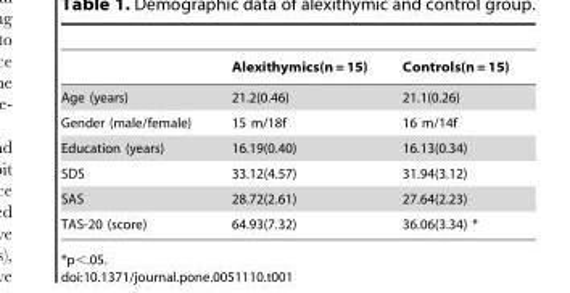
<table><thead><tr><td></td><td>Alexithymics(n = 15)</td><td>Controls(n = 15)</td></tr></thead><tbody><tr><td>Age (years)</td><td>21.2(0.46)</td><td>21.1(0.26)</td></tr><tr><td>Gender (male/female)</td><td>15 m/18f</td><td>16 m/14f</td></tr><tr><td>Education (years)</td><td>16.19(0.40)</td><td>16.13(0.34)</td></tr><tr><td>SDS</td><td>33.12(4.57)</td><td>31.94(3.12)</td></tr><tr><td>SAS</td><td>28.72(2.61)</td><td>27.64(2.23)</td></tr><tr><td>TAS-20 (score)</td><td>64.93(7.32)</td><td>36.06(3.34) *</td></tr></tbody></table>